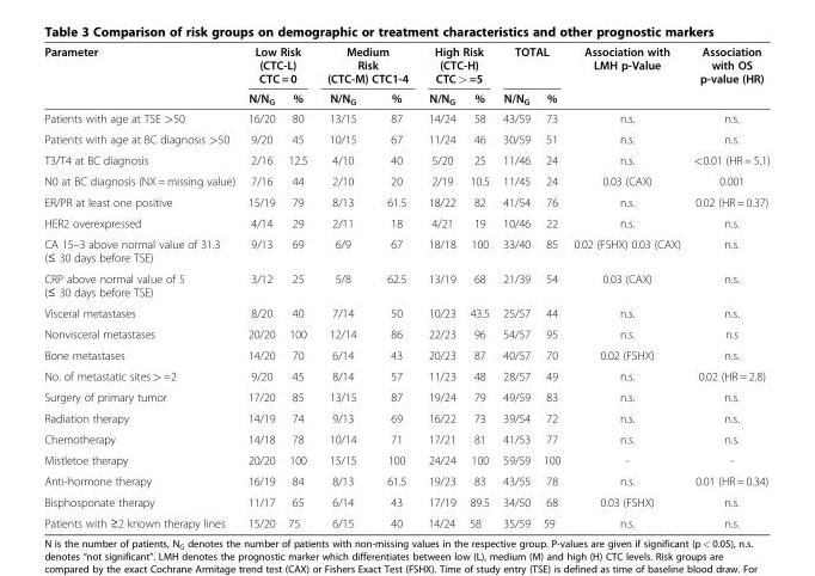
<table><thead><tr><td rowspan="2">Parameter</td><td colspan="2">Low Risk (CTC-L) CTC = 0</td><td colspan="2">Medium Risk (CTC-M) CTC1-4</td><td colspan="2">High Risk (CTC-H) CTC &gt; =5</td><td colspan="2">TOTAL</td><td rowspan="2">Association with LMH p-Value</td><td rowspan="2">Association with OS p-value (HR)</td></tr><tr><td>N/N<sub>G</sub></td><td>%</td><td>N/N<sub>G</sub></td><td>%</td><td>N/N<sub>G</sub></td><td>%</td><td>N/N<sub>G</sub></td><td>%</td></tr></thead><tbody><tr><td>Patients with age at TSE &gt;50</td><td>16/20</td><td>80</td><td>13/15</td><td>87</td><td>14/24</td><td>58</td><td>43/59</td><td>73</td><td>n.s.</td><td>n.s.</td></tr><tr><td>Patients with age at BC diagnosis &gt;50</td><td>9/20</td><td>45</td><td>10/15</td><td>67</td><td>11/24</td><td>46</td><td>30/59</td><td>51</td><td>n.s.</td><td>n.s.</td></tr><tr><td>T3/T4 at BC diagnosis</td><td>2/16</td><td>12.5</td><td>4/10</td><td>40</td><td>5/20</td><td>25</td><td>11/46</td><td>24</td><td>n.s.</td><td>&lt;0.01 (HR = 5.1)</td></tr><tr><td>N0 at BC diagnosis (NX = missing value)</td><td>7/16</td><td>44</td><td>2/10</td><td>20</td><td>2/19</td><td>10.5</td><td>11/45</td><td>24</td><td>0.03 (CAX)</td><td>0.001</td></tr><tr><td>ER/PR at least one positive</td><td>15/19</td><td>79</td><td>8/13</td><td>61.5</td><td>18/22</td><td>82</td><td>41/54</td><td>76</td><td>n.s.</td><td>0.02 (HR = 0.37)</td></tr><tr><td>HER2 overexpressed</td><td>4/14</td><td>29</td><td>2/11</td><td>18</td><td>4/21</td><td>19</td><td>10/46</td><td>22</td><td>n.s.</td><td>n.s.</td></tr><tr><td>CA 15–3 above normal value of 31.3 (≤ 30 days before TSE)</td><td>9/13</td><td>69</td><td>6/9</td><td>67</td><td>18/18</td><td>100</td><td>33/40</td><td>85</td><td>0.02 (FSHX) 0.03 (CAX)</td><td>n.s.</td></tr><tr><td>CRP above normal value of 5 (≤ 30 days before TSE)</td><td>3/12</td><td>25</td><td>5/8</td><td>62.5</td><td>13/19</td><td>68</td><td>21/39</td><td>54</td><td>0.03 (CAX)</td><td>n.s.</td></tr><tr><td>Visceral metastases</td><td>8/20</td><td>40</td><td>7/14</td><td>50</td><td>10/23</td><td>43.5</td><td>25/57</td><td>44</td><td>n.s.</td><td>n.s.</td></tr><tr><td>Nonvisceral metastases</td><td>20/20</td><td>100</td><td>12/14</td><td>86</td><td>22/23</td><td>96</td><td>54/57</td><td>95</td><td>n.s.</td><td>n.s</td></tr><tr><td>Bone metastases</td><td>14/20</td><td>70</td><td>6/14</td><td>43</td><td>20/23</td><td>87</td><td>40/57</td><td>70</td><td>0.02 (FSHX)</td><td>n.s.</td></tr><tr><td>No. of metastatic sites &gt; =2</td><td>9/20</td><td>45</td><td>8/14</td><td>57</td><td>11/23</td><td>48</td><td>28/57</td><td>49</td><td>n.s.</td><td>0.02 (HR = 2.8)</td></tr><tr><td>Surgery of primary tumor</td><td>17/20</td><td>85</td><td>13/15</td><td>87</td><td>19/24</td><td>79</td><td>49/59</td><td>83</td><td>n.s.</td><td>n.s.</td></tr><tr><td>Radiation therapy</td><td>14/19</td><td>74</td><td>9/13</td><td>69</td><td>16/22</td><td>73</td><td>39/54</td><td>72</td><td>n.s.</td><td>n.s.</td></tr><tr><td>Chemotherapy</td><td>14/18</td><td>78</td><td>10/14</td><td>71</td><td>17/21</td><td>81</td><td>41/53</td><td>77</td><td>n.s.</td><td>n.s.</td></tr><tr><td>Mistletoe therapy</td><td>20/20</td><td>100</td><td>15/15</td><td>100</td><td>24/24</td><td>100</td><td>59/59</td><td>100</td><td>-</td><td>-</td></tr><tr><td>Anti-hormone therapy</td><td>16/19</td><td>84</td><td>8/13</td><td>61.5</td><td>19/23</td><td>83</td><td>43/55</td><td>78</td><td>n.s.</td><td>0.01 (HR = 0.34)</td></tr><tr><td>Bisphosponate therapy</td><td>11/17</td><td>65</td><td>6/14</td><td>43</td><td>17/19</td><td>89.5</td><td>34/50</td><td>68</td><td>0.03 (FSHX)</td><td>n.s.</td></tr><tr><td>Patients with ≥2 known therapy lines</td><td>15/20</td><td>75</td><td>6/15</td><td>40</td><td>14/24</td><td>58</td><td>35/59</td><td>59</td><td>n.s.</td><td>n.s.</td></tr></tbody></table>